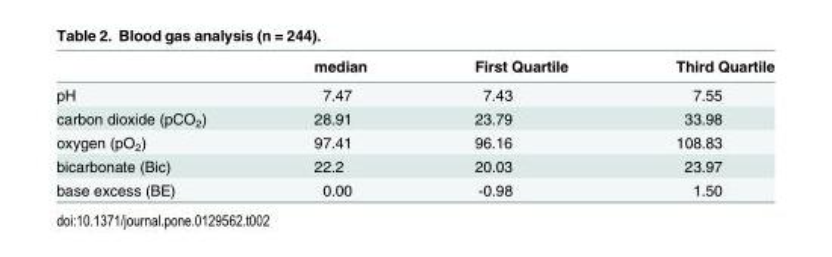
<table><thead><tr><td></td><td>median</td><td>First Quartile</td><td>Third Quartile</td></tr></thead><tbody><tr><td>pH</td><td>7.47</td><td>7.43</td><td>7.55</td></tr><tr><td>carbon dioxide (pCO<sub>2</sub>)</td><td>28.91</td><td>23.79</td><td>33.98</td></tr><tr><td>oxygen (pO<sub>2</sub>)</td><td>97.41</td><td>96.16</td><td>108.83</td></tr><tr><td>bicarbonate (Bic)</td><td>22.2</td><td>20.03</td><td>23.97</td></tr><tr><td>base excess (BE)</td><td>0.00</td><td>-0.98</td><td>1.50</td></tr></tbody></table>